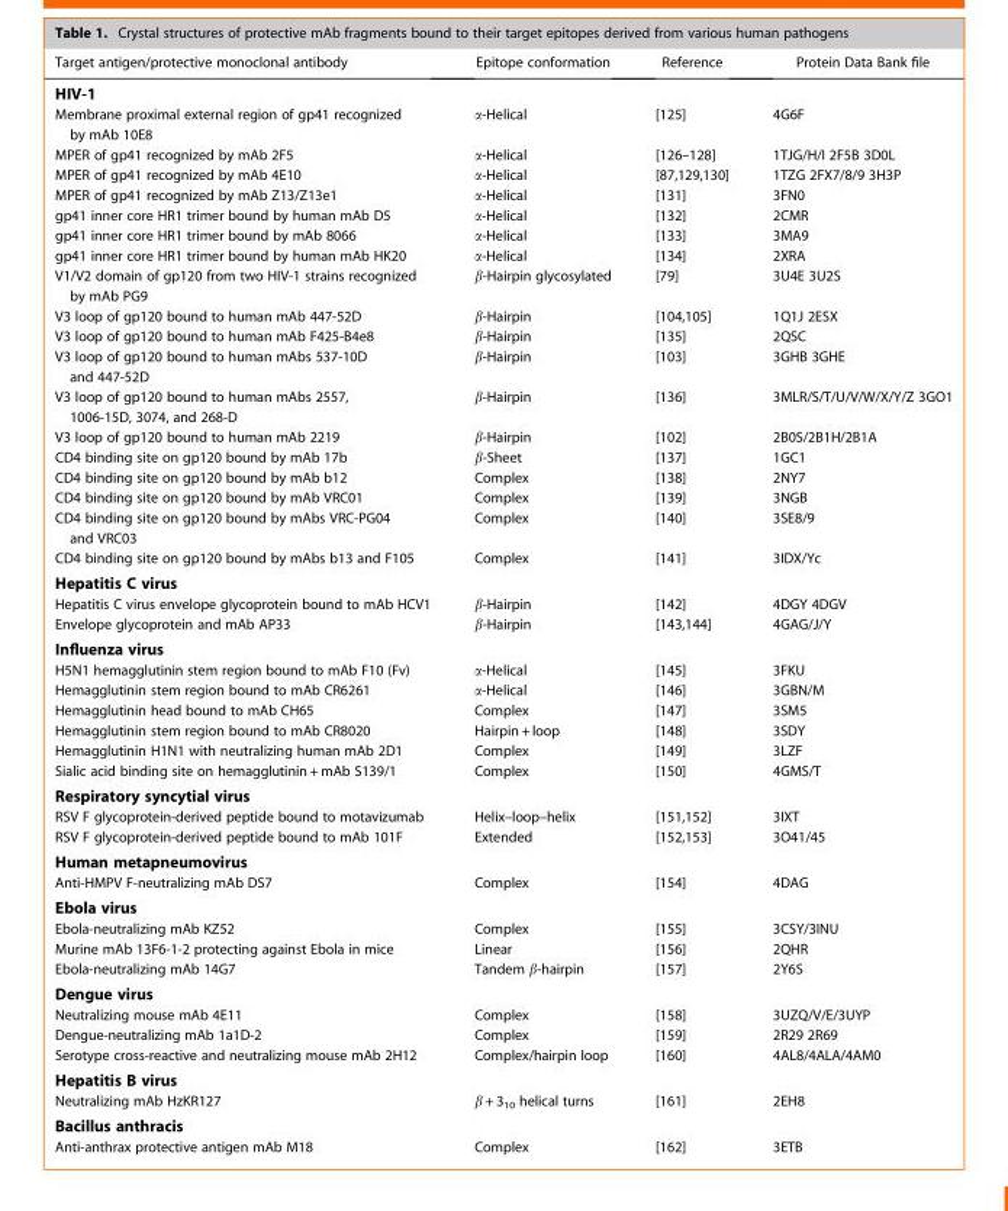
<table><thead><tr><td>Target antigen/protective monoclonal antibody</td><td>Epitope conformation</td><td>Reference</td><td>Protein Data Bank file</td></tr></thead><tbody><tr><td colspan="4">HIV-1</td></tr><tr><td>Membrane proximal external region of gp41 recognized by mAb 10E8</td><td>α-Helical</td><td>[125]</td><td>4G6F</td></tr><tr><td>MPER of gp41 recognized by mAb 2F5</td><td>α-Helical</td><td>[126–128]</td><td>1TJG/H/I 2F5B 3D0L</td></tr><tr><td>MPER of gp41 recognized by mAb 4E10</td><td>α-Helical</td><td>[87,129,130]</td><td>1TZG 2FX7/8/9 3H3P</td></tr><tr><td>MPER of gp41 recognized by mAb Z13/Z13e1</td><td>α-Helical</td><td>[131]</td><td>3FN0</td></tr><tr><td>gp41 inner core HR1 trimer bound by human mAb D5</td><td>α-Helical</td><td>[132]</td><td>2CMR</td></tr><tr><td>gp41 inner core HR1 trimer bound by mAb 8066</td><td>α-Helical</td><td>[133]</td><td>3MA9</td></tr><tr><td>gp41 inner core HR1 trimer bound by human mAb HK20</td><td>α-Helical</td><td>[134]</td><td>2XRA</td></tr><tr><td>V1/V2 domain of gp120 from two HIV-1 strains recognized by mAb PG9</td><td>β-Hairpin glycosylated</td><td>[79]</td><td>3U4E 3U2S</td></tr><tr><td>V3 loop of gp120 bound to human mAb 447-52D</td><td>β-Hairpin</td><td>[104,105]</td><td>1Q1J 2ESX</td></tr><tr><td>V3 loop of gp120 bound to human mAb F425-B4e8</td><td>β-Hairpin</td><td>[135]</td><td>2QSC</td></tr><tr><td>V3 loop of gp120 bound to human mAbs 537-10D and 447-52D</td><td>β-Hairpin</td><td>[103]</td><td>3GHB 3GHE</td></tr><tr><td>V3 loop of gp120 bound to human mAbs 2557, 1006-15D, 3074, and 268-D</td><td>β-Hairpin</td><td>[136]</td><td>3MLR/S/T/U/V/W/X/Y/Z 3GO1</td></tr><tr><td>V3 loop of gp120 bound to human mAb 2219</td><td>β-Hairpin</td><td>[102]</td><td>2B0S/2B1H/2B1A</td></tr><tr><td>CD4 binding site on gp120 bound by mAb 17b</td><td>β-Sheet</td><td>[137]</td><td>1GC1</td></tr><tr><td>CD4 binding site on gp120 bound by mAb b12</td><td>Complex</td><td>[138]</td><td>2NY7</td></tr><tr><td>CD4 binding site on gp120 bound by mAb VRC01</td><td>Complex</td><td>[139]</td><td>3NGB</td></tr><tr><td>CD4 binding site on gp120 bound by mAbs VRC-PG04 and VRC03</td><td>Complex</td><td>[140]</td><td>3SE8/9</td></tr><tr><td>CD4 binding site on gp120 bound by mAbs b13 and F105</td><td>Complex</td><td>[141]</td><td>3IDX/Yc</td></tr><tr><td colspan="4">Hepatitis C virus</td></tr><tr><td>Hepatitis C virus envelope glycoprotein bound to mAb HCV1</td><td>β-Hairpin</td><td>[142]</td><td>4DGY 4DGV</td></tr><tr><td>Envelope glycoprotein and mAb AP33</td><td>β-Hairpin</td><td>[143,144]</td><td>4GAG/J/Y</td></tr><tr><td colspan="4">Influenza virus</td></tr><tr><td>H5N1 hemagglutinin stem region bound to mAb F10 (Fv)</td><td>α-Helical</td><td>[145]</td><td>3FKU</td></tr><tr><td>Hemagglutinin stem region bound to mAb CR6261</td><td>α-Helical</td><td>[146]</td><td>3GBN/M</td></tr><tr><td>Hemagglutinin head bound to mAb CH65</td><td>Complex</td><td>[147]</td><td>3SM5</td></tr><tr><td>Hemagglutinin stem region bound to mAb CR8020</td><td>Hairpin + loop</td><td>[148]</td><td>3SDY</td></tr><tr><td>Hemagglutinin H1N1 with neutralizing human mAb 2D1</td><td>Complex</td><td>[149]</td><td>3LZF</td></tr><tr><td>Sialic acid binding site on hemagglutinin + mAb S139/1</td><td>Complex</td><td>[150]</td><td>4GMS/T</td></tr><tr><td colspan="4">Respiratory syncytial virus</td></tr><tr><td>RSV F glycoprotein-derived peptide bound to motavizumab</td><td>Helix–loop–helix</td><td>[151,152]</td><td>3IXT</td></tr><tr><td>RSV F glycoprotein-derived peptide bound to mAb 101F</td><td>Extended</td><td>[152,153]</td><td>3O41/45</td></tr><tr><td colspan="4">Human metapneumovirus</td></tr><tr><td>Anti-HMPV F-neutralizing mAb DS7</td><td>Complex</td><td>[154]</td><td>4DAG</td></tr><tr><td colspan="4">Ebola virus</td></tr><tr><td>Ebola-neutralizing mAb KZ52</td><td>Complex</td><td>[155]</td><td>3CSY/3INU</td></tr><tr><td>Murine mAb 13F6-1-2 protecting against Ebola in mice</td><td>Linear</td><td>[156]</td><td>2QHR</td></tr><tr><td>Ebola-neutralizing mAb 14G7</td><td>Tandem β-hairpin</td><td>[157]</td><td>2Y6S</td></tr><tr><td colspan="4">Dengue virus</td></tr><tr><td>Neutralizing mouse mAb 4E11</td><td>Complex</td><td>[158]</td><td>3UZQ/V/E/3UYP</td></tr><tr><td>Dengue-neutralizing mAb 1a1D-2</td><td>Complex</td><td>[159]</td><td>2R29 2R69</td></tr><tr><td>Serotype cross-reactive and neutralizing mouse mAb 2H12</td><td>Complex/hairpin loop</td><td>[160]</td><td>4AL8/4ALA/4AM0</td></tr><tr><td colspan="4">Hepatitis B virus</td></tr><tr><td>Neutralizing mAb HzKR127</td><td>β + 3<sub>10</sub> helical turns</td><td>[161]</td><td>2EH8</td></tr><tr><td colspan="4">Bacillus anthracis</td></tr><tr><td>Anti-anthrax protective antigen mAb M18</td><td>Complex</td><td>[162]</td><td>3ETB</td></tr></tbody></table>